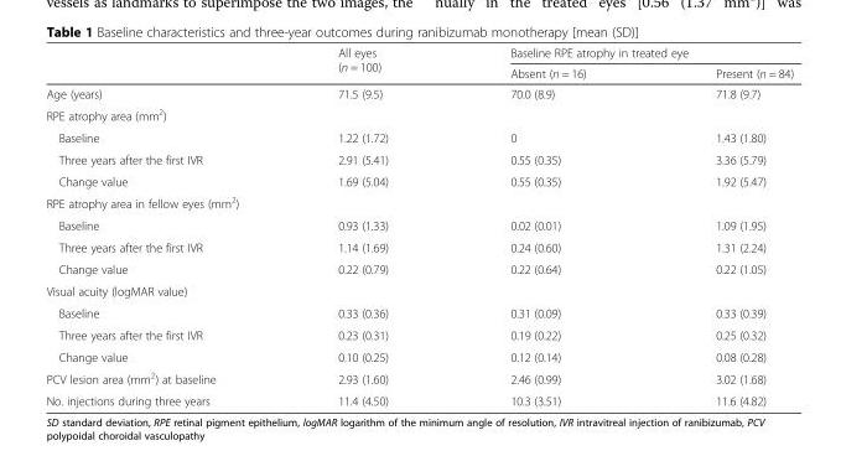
<table><thead><tr><td rowspan="2"></td><td rowspan="2">All eyes (n = 100)</td><td colspan="2">Baseline RPE atrophy in treated eye</td></tr><tr><td>Absent (n = 16)</td><td>Present (n = 84)</td></tr></thead><tbody><tr><td>Age (years)</td><td>71.5 (9.5)</td><td>70.0 (8.9)</td><td>71.8 (9.7)</td></tr><tr><td colspan="4">RPE atrophy area (mm<sup>2</sup>)</td></tr><tr><td>Baseline</td><td>1.22 (1.72)</td><td>0</td><td>1.43 (1.80)</td></tr><tr><td>Three years after the first IVR</td><td>2.91 (5.41)</td><td>0.55 (0.35)</td><td>3.36 (5.79)</td></tr><tr><td>Change value</td><td>1.69 (5.04)</td><td>0.55 (0.35)</td><td>1.92 (5.47)</td></tr><tr><td colspan="4">RPE atrophy area in fellow eyes (mm<sup>2</sup>)</td></tr><tr><td>Baseline</td><td>0.93 (1.33)</td><td>0.02 (0.01)</td><td>1.09 (1.95)</td></tr><tr><td>Three years after the first IVR</td><td>1.14 (1.69)</td><td>0.24 (0.60)</td><td>1.31 (2.24)</td></tr><tr><td>Change value</td><td>0.22 (0.79)</td><td>0.22 (0.64)</td><td>0.22 (1.05)</td></tr><tr><td colspan="4">Visual acuity (logMAR value)</td></tr><tr><td>Baseline</td><td>0.33 (0.36)</td><td>0.31 (0.09)</td><td>0.33 (0.39)</td></tr><tr><td>Three years after the first IVR</td><td>0.23 (0.31)</td><td>0.19 (0.22)</td><td>0.25 (0.32)</td></tr><tr><td>Change value</td><td>0.10 (0.25)</td><td>0.12 (0.14)</td><td>0.08 (0.28)</td></tr><tr><td>PCV lesion area (mm<sup>2</sup>) at baseline</td><td>2.93 (1.60)</td><td>2.46 (0.99)</td><td>3.02 (1.68)</td></tr><tr><td>No. injections during three years</td><td>11.4 (4.50)</td><td>10.3 (3.51)</td><td>11.6 (4.82)</td></tr></tbody></table>